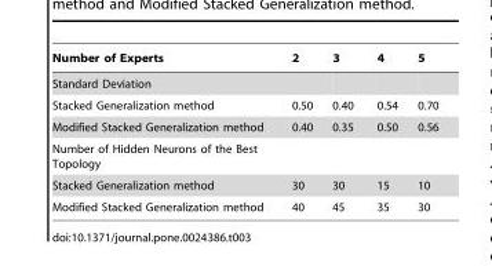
<table><thead><tr><td>Number of Experts</td><td>2</td><td>3</td><td>4</td><td>5</td></tr></thead><tbody><tr><td colspan="5">Standard Deviation</td></tr><tr><td>Stacked Generalization method</td><td>0.50</td><td>0.40</td><td>0.54</td><td>0.70</td></tr><tr><td>Modified Stacked Generalization method</td><td>0.40</td><td>0.35</td><td>0.50</td><td>0.56</td></tr><tr><td colspan="5">Number of Hidden Neurons of the Best Topology</td></tr><tr><td>Stacked Generalization method</td><td>30</td><td>30</td><td>15</td><td>10</td></tr><tr><td>Modified Stacked Generalization method</td><td>40</td><td>45</td><td>35</td><td>30</td></tr></tbody></table>